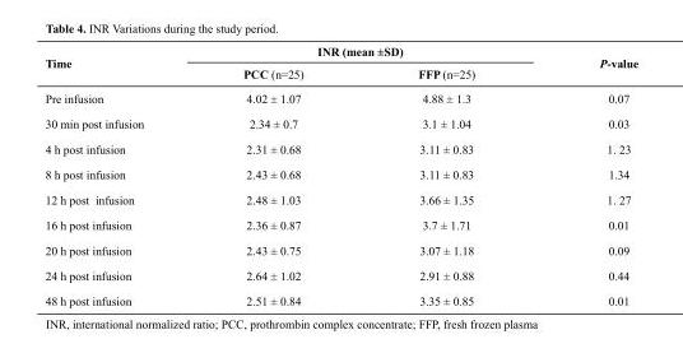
<table><thead><tr><td rowspan="2">Time</td><td colspan="2">INR (mean ±SD)</td><td rowspan="2">P-value</td></tr><tr><td>PCC (n=25)</td><td>FFP (n=25)</td></tr></thead><tbody><tr><td>Pre infusion</td><td>4.02 ± 1.07</td><td>4.88 ± 1.3</td><td>0.07</td></tr><tr><td>30 min post infusion</td><td>2.34 ± 0.7</td><td>3.1 ± 1.04</td><td>0.03</td></tr><tr><td>4 h post infusion</td><td>2.31 ± 0.68</td><td>3.11 ± 0.83</td><td>1. 23</td></tr><tr><td>8 h post infusion</td><td>2.43 ± 0.68</td><td>3.11 ± 0.83</td><td>1.34</td></tr><tr><td>12 h post infusion</td><td>2.48 ± 1.03</td><td>3.66 ± 1.35</td><td>1. 27</td></tr><tr><td>16 h post infusion</td><td>2.36 ± 0.87</td><td>3.7 ± 1.71</td><td>0.01</td></tr><tr><td>20 h post infusion</td><td>2.43 ± 0.75</td><td>3.07 ± 1.18</td><td>0.09</td></tr><tr><td>24 h post infusion</td><td>2.64 ± 1.02</td><td>2.91 ± 0.88</td><td>0.44</td></tr><tr><td>48 h post infusion</td><td>2.51 ± 0.84</td><td>3.35 ± 0.85</td><td>0.01</td></tr></tbody></table>